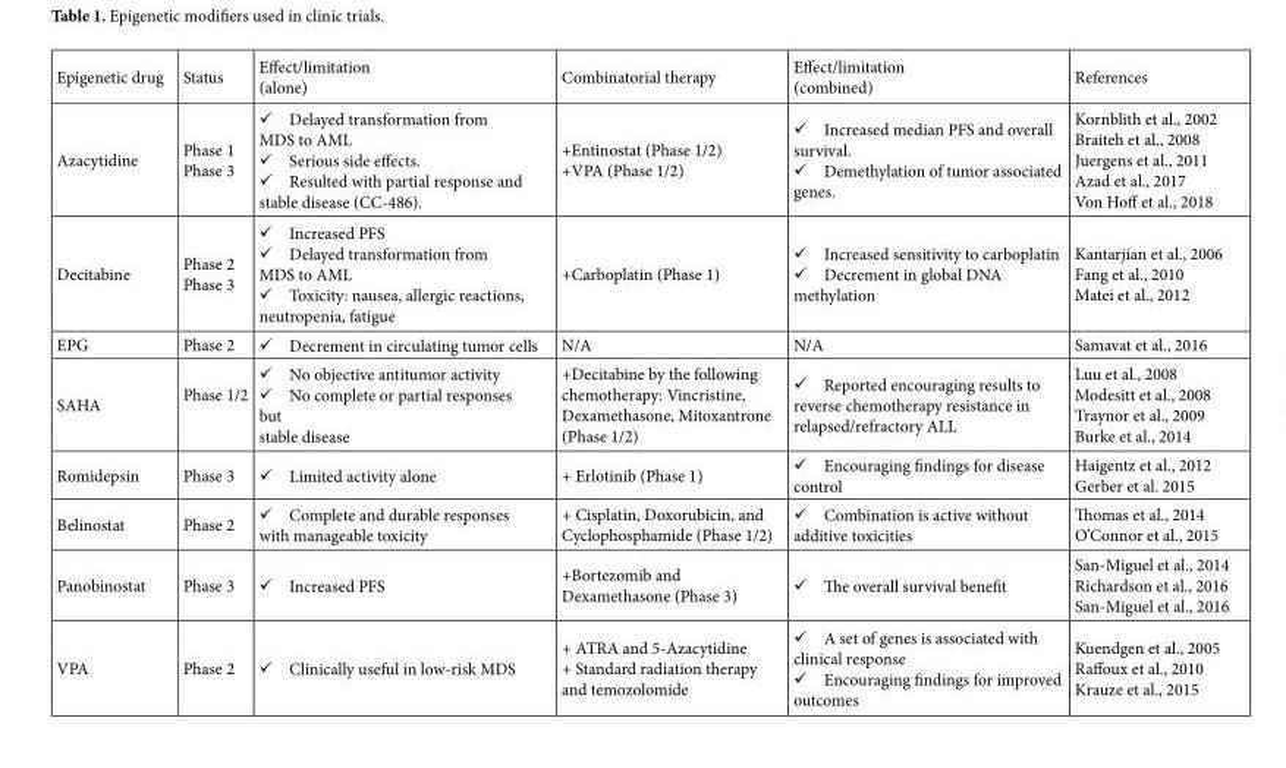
<table><thead><tr><td>Epigenetic drug</td><td>Status</td><td>Effect/limitation (alone)</td><td>Combinatorial therapy</td><td>Effect/limitation (combined)</td><td>References</td></tr></thead><tbody><tr><td>Azacytidine</td><td>Phase 1 Phase 3</td><td> Delayed transformation from MDS to AML  Serious side effects.  Resulted with partial response and stable disease (CC-486).</td><td>+Entinostat (Phase 1/2) +VPA (Phase 1/2)</td><td> Increased median PFS and overall survival.  Demethylation of tumor associated genes.</td><td>Kornblith et al., 2002 Braiteh et al., 2008 Juergens et al., 2011 Azad et al., 2017 Von Hoff et al., 2018</td></tr><tr><td>Decitabine</td><td>Phase 2 Phase 3</td><td> Increased PFS  Delayed transformation from MDS to AML  Toxicity: nausea, allergic reactions, neutropenia, fatigue</td><td>+Carboplatin (Phase 1)</td><td> Increased sensitivity to carboplatin  Decrement in global DNA methylation</td><td>Kantarjian et al., 2006 Fang et al., 2010 Matei et al., 2012</td></tr><tr><td>EPG</td><td>Phase 2</td><td> Decrement in circulating tumor cells</td><td>N/A</td><td>N/A</td><td>Samavat et al., 2016</td></tr><tr><td>SAHA</td><td>Phase 1/2</td><td> No objective antitumor activity  No complete or partial responses but stable disease</td><td>+Decitabine by the following chemotherapy: Vincristine, Dexamethasone, Mitoxantrone (Phase 1/2)</td><td> Reported encouraging results to reverse chemotherapy resistance in relapsed/refractory ALL</td><td>Luu et al., 2008 Modesitt et al., 2008 Traynor et al., 2009 Burke et al., 2014</td></tr><tr><td>Romidepsin</td><td>Phase 3</td><td> Limited activity alone</td><td>+ Erlotinib (Phase 1)</td><td> Encouraging findings for disease control</td><td>Haigentz et al., 2012 Gerber et al. 2015</td></tr><tr><td>Belinostat</td><td>Phase 2</td><td> Complete and durable responses with manageable toxicity</td><td>+ Cisplatin, Doxorubicin, and Cyclophosphamide (Phase 1/2)</td><td> Combination is active without additive toxicities</td><td>Thomas et al., 2014 O’Connor et al., 2015</td></tr><tr><td>Panobinostat</td><td>Phase 3</td><td> Increased PFS</td><td>+Bortezomib and Dexamethasone (Phase 3)</td><td> The overall survival benefit</td><td>San-Miguel et al., 2014 Richardson et al., 2016 San-Miguel et al., 2016</td></tr><tr><td>VPA</td><td>Phase 2</td><td> Clinically useful in low-risk MDS</td><td>+ ATRA and 5-Azacytidine + Standard radiation therapy and temozolomide</td><td> A set of genes is associated with clinical response  Encouraging findings for improved outcomes</td><td>Kuendgen et al., 2005 Raffoux et al., 2010 Krauze et al., 2015</td></tr></tbody></table>